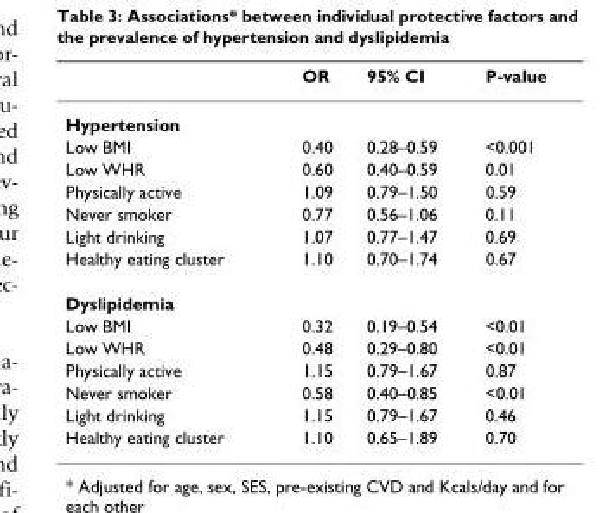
<table><thead><tr><td></td><td>OR</td><td>95% CI</td><td>P-value</td></tr></thead><tbody><tr><td colspan="4">Hypertension</td></tr><tr><td>Low BMI</td><td>0.40</td><td>0.28–0.59</td><td>&lt;0.001</td></tr><tr><td>Low WHR</td><td>0.60</td><td>0.40–0.59</td><td>0.01</td></tr><tr><td>Physically active</td><td>1.09</td><td>0.79–1.50</td><td>0.59</td></tr><tr><td>Never smoker</td><td>0.77</td><td>0.56–1.06</td><td>0.11</td></tr><tr><td>Light drinking</td><td>1.07</td><td>0.77–1.47</td><td>0.69</td></tr><tr><td>Healthy eating cluster</td><td>1.10</td><td>0.70–1.74</td><td>0.67</td></tr><tr><td colspan="4">Dyslipidemia</td></tr><tr><td>Low BMI</td><td>0.32</td><td>0.19–0.54</td><td>&lt;0.01</td></tr><tr><td>Low WHR</td><td>0.48</td><td>0.29–0.80</td><td>&lt;0.01</td></tr><tr><td>Physically active</td><td>1.15</td><td>0.79–1.67</td><td>0.87</td></tr><tr><td>Never smoker</td><td>0.58</td><td>0.40–0.85</td><td>&lt;0.01</td></tr><tr><td>Light drinking</td><td>1.15</td><td>0.79–1.67</td><td>0.46</td></tr><tr><td>Healthy eating cluster</td><td>1.10</td><td>0.65–1.89</td><td>0.70</td></tr></tbody></table>